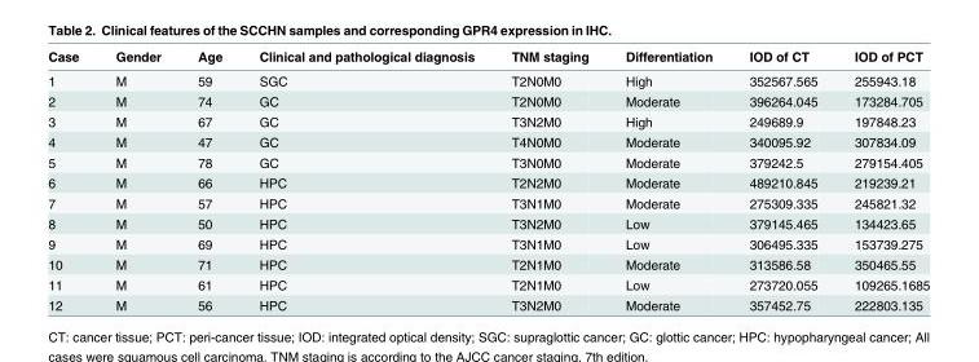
<table><thead><tr><td>Case</td><td>Gender</td><td>Age</td><td>Clinical and pathological diagnosis</td><td>TNM staging</td><td>Differentiation</td><td>IOD of CT</td><td>IOD of PCT</td></tr></thead><tbody><tr><td>1</td><td>M</td><td>59</td><td>SGC</td><td>T2N0M0</td><td>High</td><td>352567.565</td><td>255943.18</td></tr><tr><td>2</td><td>M</td><td>74</td><td>GC</td><td>T2N0M0</td><td>Moderate</td><td>396264.045</td><td>173284.705</td></tr><tr><td>3</td><td>M</td><td>67</td><td>GC</td><td>T3N2M0</td><td>High</td><td>249689.9</td><td>197848.23</td></tr><tr><td>4</td><td>M</td><td>47</td><td>GC</td><td>T4N0M0</td><td>Moderate</td><td>340095.92</td><td>307834.09</td></tr><tr><td>5</td><td>M</td><td>78</td><td>GC</td><td>T3N0M0</td><td>Moderate</td><td>379242.5</td><td>279154.405</td></tr><tr><td>6</td><td>M</td><td>66</td><td>HPC</td><td>T2N2M0</td><td>Moderate</td><td>489210.845</td><td>219239.21</td></tr><tr><td>7</td><td>M</td><td>57</td><td>HPC</td><td>T3N1M0</td><td>Moderate</td><td>275309.335</td><td>245821.32</td></tr><tr><td>8</td><td>M</td><td>50</td><td>HPC</td><td>T3N2M0</td><td>Low</td><td>379145.465</td><td>134423.65</td></tr><tr><td>9</td><td>M</td><td>69</td><td>HPC</td><td>T3N1M0</td><td>Low</td><td>306495.335</td><td>153739.275</td></tr><tr><td>10</td><td>M</td><td>71</td><td>HPC</td><td>T2N1M0</td><td>Moderate</td><td>313586.58</td><td>350465.55</td></tr><tr><td>11</td><td>M</td><td>61</td><td>HPC</td><td>T2N1M0</td><td>Low</td><td>273720.055</td><td>109265.1685</td></tr><tr><td>12</td><td>M</td><td>56</td><td>HPC</td><td>T3N2M0</td><td>Moderate</td><td>357452.75</td><td>222803.135</td></tr></tbody></table>